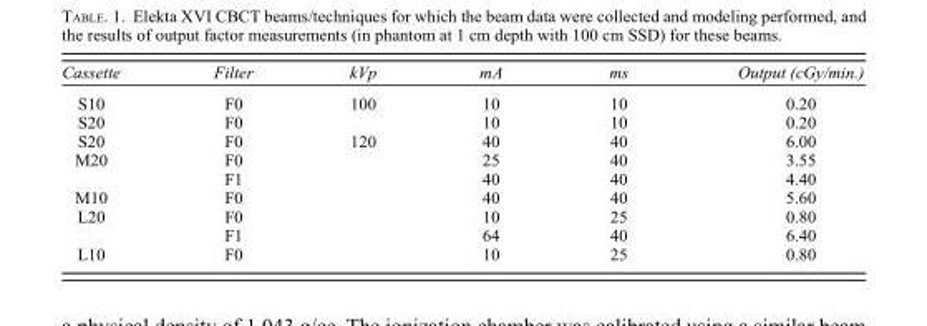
<table><thead><tr><td>Cassette</td><td>Filter</td><td>kVp</td><td>mA</td><td>ms</td><td>Output (cGy/min.)</td></tr></thead><tbody><tr><td>S10</td><td>F0</td><td>100</td><td>10</td><td>10</td><td>0.20</td></tr><tr><td>S20</td><td>F0</td><td></td><td>10</td><td>10</td><td>0.20</td></tr><tr><td>S20</td><td>F0</td><td>120</td><td>40</td><td>40</td><td>6.00</td></tr><tr><td rowspan="2">M20</td><td>F0</td><td></td><td>25</td><td>40</td><td>3.55</td></tr><tr><td>F1</td><td></td><td>40</td><td>40</td><td>4.40</td></tr><tr><td>M10</td><td>F0</td><td></td><td>40</td><td>40</td><td>5.60</td></tr><tr><td rowspan="2">L20</td><td>F0</td><td></td><td>10</td><td>25</td><td>0.80</td></tr><tr><td>F1</td><td></td><td>64</td><td>40</td><td>6.40</td></tr><tr><td>L10</td><td>F0</td><td></td><td>10</td><td>25</td><td>0.80</td></tr></tbody></table>